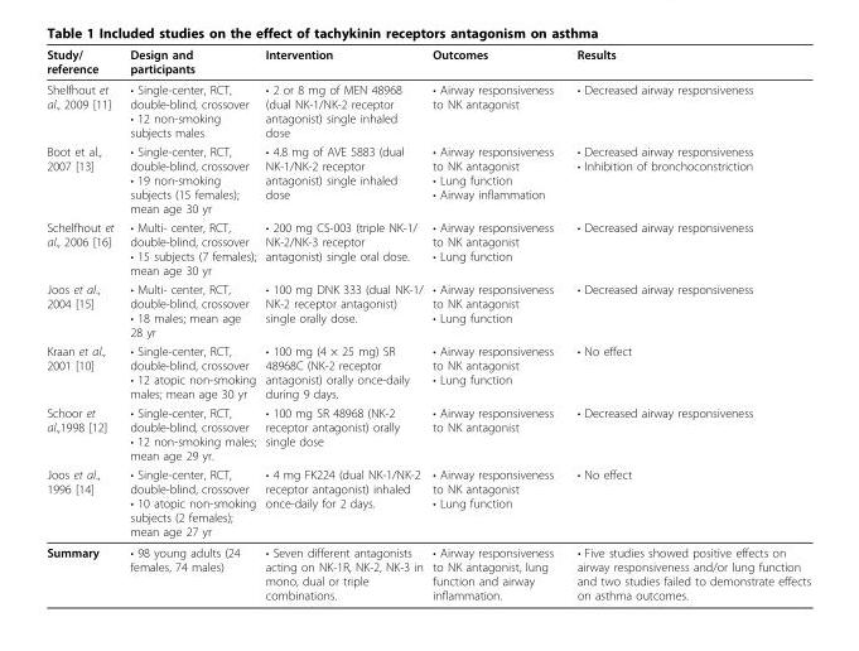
<table><thead><tr><td>Study/ reference</td><td>Design and participants</td><td>Intervention</td><td>Outcomes</td><td>Results</td></tr></thead><tbody><tr><td>Shelfhout et al., 2009 [11]</td><td>• Single-center, RCT, double-blind, crossover • 12 non-smoking subjects males</td><td>• 2 or 8 mg of MEN 48968 (dual NK-1/NK-2 receptor antagonist) single inhaled dose</td><td>• Airway responsiveness to NK antagonist</td><td>• Decreased airway responsiveness</td></tr><tr><td>Boot et al., 2007 [13]</td><td>• Single-center, RCT, double-blind, crossover • 19 non-smoking subjects (15 females); mean age 30 yr</td><td>• 4.8 mg of AVE 5883 (dual NK-1/NK-2 receptor antagonist) single inhaled dose</td><td>• Airway responsiveness to NK antagonist • Lung function • Airway inflammation</td><td>• Decreased airway responsiveness • Inhibition of bronchoconstriction</td></tr><tr><td>Schelfhout et al., 2006 [16]</td><td>• Multi- center, RCT, double-blind, crossover • 15 subjects (7 females); mean age 30 yr</td><td>• 200 mg CS-003 (triple NK-1/ NK-2/NK-3 receptor antagonist) single oral dose.</td><td>• Airway responsiveness to NK antagonist • Lung function</td><td>• Decreased airway responsiveness</td></tr><tr><td>Joos et al., 2004 [15]</td><td>• Multi- center, RCT, double-blind, crossover • 18 males; mean age 28 yr</td><td>• 100 mg DNK 333 (dual NK-1/ NK-2 receptor antagonist) single orally dose.</td><td>• Airway responsiveness to NK antagonist • Lung function</td><td>• Decreased airway responsiveness</td></tr><tr><td>Kraan et al., 2001 [10]</td><td>• Single-center, RCT, double-blind, crossover • 12 atopic non-smoking males; mean age 30 yr</td><td>• 100 mg (4 × 25 mg) SR 48968C (NK-2 receptor antagonist) orally once-daily during 9 days.</td><td>• Airway responsiveness to NK antagonist • Lung function</td><td>• No effect</td></tr><tr><td>Schoor et al.,1998 [12]</td><td>• Single-center, RCT, double-blind, crossover • 12 non-smoking males; mean age 29 yr.</td><td>• 100 mg SR 48968 (NK-2 receptor antagonist) orally single dose</td><td>• Airway responsiveness to NK antagonist</td><td>• Decreased airway responsiveness</td></tr><tr><td>Joos et al., 1996 [14]</td><td>• Single-center, RCT, double-blind, crossover • 10 atopic non-smoking subjects (2 females); mean age 27 yr</td><td>• 4 mg FK224 (dual NK-1/NK-2 receptor antagonist) inhaled once-daily for 2 days.</td><td>• Airway responsiveness to NK antagonist • Lung function</td><td>• No effect</td></tr><tr><td>Summary</td><td>• 98 young adults (24 females, 74 males)</td><td>• Seven different antagonists acting on NK-1R, NK-2, NK-3 in mono, dual or triple combinations.</td><td>• Airway responsiveness to NK antagonist, lung function and airway inflammation.</td><td>• Five studies showed positive effects on airway responsiveness and/or lung function and two studies failed to demonstrate effects on asthma outcomes.</td></tr></tbody></table>